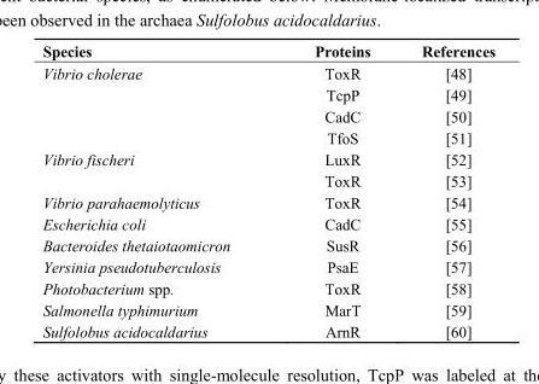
<table><thead><tr><td>Species</td><td>Proteins</td><td>References</td></tr></thead><tbody><tr><td rowspan="4">Vibrio cholerae</td><td>ToxR</td><td>[48]</td></tr><tr><td>TcpP</td><td>[49]</td></tr><tr><td>CadC</td><td>[50]</td></tr><tr><td>TfoS</td><td>[51]</td></tr><tr><td rowspan="2">Vibrio fischeri</td><td>LuxR</td><td>[52]</td></tr><tr><td>ToxR</td><td>[53]</td></tr><tr><td>Vibrio parahaemolyticus</td><td>ToxR</td><td>[54]</td></tr><tr><td>Escherichia coli</td><td>CadC</td><td>[55]</td></tr><tr><td>Bacteroides thetaiotaomicron</td><td>SusR</td><td>[56]</td></tr><tr><td>Yersinia pseudotuberculosis</td><td>PsaE</td><td>[57]</td></tr><tr><td>Photobacterium spp.</td><td>ToxR</td><td>[58]</td></tr><tr><td>Salmonella typhimurium</td><td>MarT</td><td>[59]</td></tr><tr><td>Sulfolobus acidocaldarius</td><td>ArnR</td><td>[60]</td></tr></tbody></table>